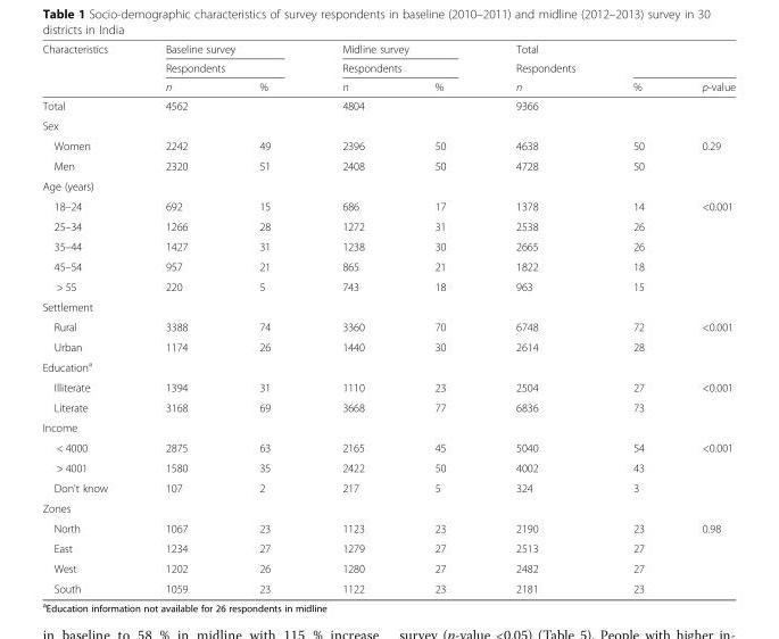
<table><thead><tr><td rowspan="3">Characteristics</td><td rowspan="2" colspan="2">Baseline survey Respondents</td><td rowspan="2" colspan="2">Midline survey Respondents</td><td rowspan="3">Total Respondents n</td><td rowspan="3">%</td><td rowspan="3">p-value</td></tr><tr></tr><tr><td>n</td><td>%</td><td>n</td><td>%</td></tr></thead><tbody><tr><td>Total</td><td>4562</td><td></td><td>4804</td><td></td><td>9366</td><td></td><td></td></tr><tr><td colspan="8">Sex</td></tr><tr><td>Women</td><td>2242</td><td>49</td><td>2396</td><td>50</td><td>4638</td><td>50</td><td>0.29</td></tr><tr><td>Men</td><td>2320</td><td>51</td><td>2408</td><td>50</td><td>4728</td><td>50</td><td></td></tr><tr><td colspan="8">Age (years)</td></tr><tr><td>18–24</td><td>692</td><td>15</td><td>686</td><td>17</td><td>1378</td><td>14</td><td>&lt;0.001</td></tr><tr><td>25–34</td><td>1266</td><td>28</td><td>1272</td><td>31</td><td>2538</td><td>26</td><td></td></tr><tr><td>35–44</td><td>1427</td><td>31</td><td>1238</td><td>30</td><td>2665</td><td>26</td><td></td></tr><tr><td>45–54</td><td>957</td><td>21</td><td>865</td><td>21</td><td>1822</td><td>18</td><td></td></tr><tr><td>&gt; 55</td><td>220</td><td>5</td><td>743</td><td>18</td><td>963</td><td>15</td><td></td></tr><tr><td colspan="8">Settlement</td></tr><tr><td>Rural</td><td>3388</td><td>74</td><td>3360</td><td>70</td><td>6748</td><td>72</td><td>&lt;0.001</td></tr><tr><td>Urban</td><td>1174</td><td>26</td><td>1440</td><td>30</td><td>2614</td><td>28</td><td></td></tr><tr><td colspan="8">Education<sup>a</sup></td></tr><tr><td>Illiterate</td><td>1394</td><td>31</td><td>1110</td><td>23</td><td>2504</td><td>27</td><td>&lt;0.001</td></tr><tr><td>Literate</td><td>3168</td><td>69</td><td>3668</td><td>77</td><td>6836</td><td>73</td><td></td></tr><tr><td colspan="8">Income</td></tr><tr><td>&lt; 4000</td><td>2875</td><td>63</td><td>2165</td><td>45</td><td>5040</td><td>54</td><td>&lt;0.001</td></tr><tr><td>&gt; 4001</td><td>1580</td><td>35</td><td>2422</td><td>50</td><td>4002</td><td>43</td><td></td></tr><tr><td>Don&#x27;t know</td><td>107</td><td>2</td><td>217</td><td>5</td><td>324</td><td>3</td><td></td></tr><tr><td colspan="8">Zones</td></tr><tr><td>North</td><td>1067</td><td>23</td><td>1123</td><td>23</td><td>2190</td><td>23</td><td>0.98</td></tr><tr><td>East</td><td>1234</td><td>27</td><td>1279</td><td>27</td><td>2513</td><td>27</td><td></td></tr><tr><td>West</td><td>1202</td><td>26</td><td>1280</td><td>27</td><td>2482</td><td>27</td><td></td></tr><tr><td>South</td><td>1059</td><td>23</td><td>1122</td><td>23</td><td>2181</td><td>23</td><td></td></tr></tbody></table>